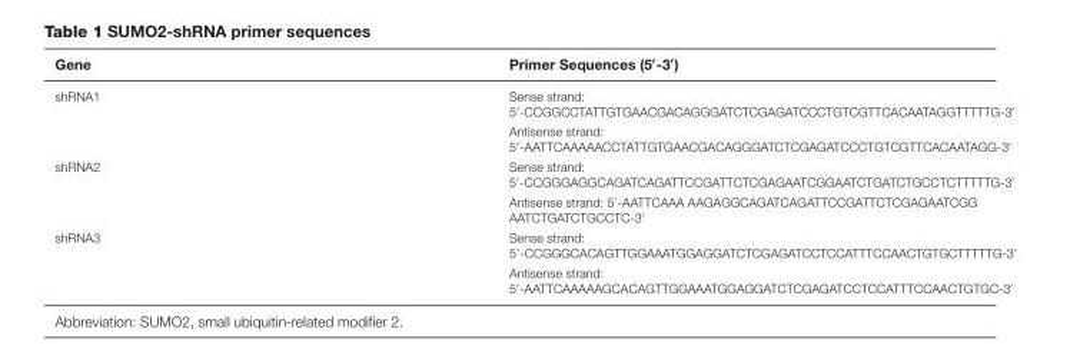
<table><thead><tr><td>Gene</td><td>Primer Sequences (5′-3′)</td></tr></thead><tbody><tr><td rowspan="2">shRNA1</td><td>Sense strand: 5′-CCGGCCTATTGTGAACGACAGGGATCTCGAGATCCCTGTCGTTCACAATAGGTTTTTG-3′</td></tr><tr><td>Antisense strand: 5′-AATTCAAAAACCTATTGTGAACGACAGGGATCTCGAGATCCCTGTCGTTCACAATAGG-3′</td></tr><tr><td rowspan="2">shRNA2</td><td>Sense strand: 5′-CCGGGAGGCAGATCAGATTCCGATTCTCGAGAATCGGAATCTGATCTGCCTCTTTTTG-3′</td></tr><tr><td>Antisense strand: 5′-AATTCAAA AAGAGGCAGATCAGATTCCGATTCTCGAGAATCGG AATCTGATCTGCCTC-3′</td></tr><tr><td rowspan="2">shRNA3</td><td>Sense strand: 5’-CCGGGCACAGTTGGAAATGGAGGATCTCGAGATCCTCCATTTCCAACTGTGCTTTTTG-3′</td></tr><tr><td>Antisense strand: 5′-AATTCAAAAAGCACAGTTGGAAATGGAGGATCTCGAGATCCTCCATTTCCAACTGTGC-3′</td></tr></tbody></table>